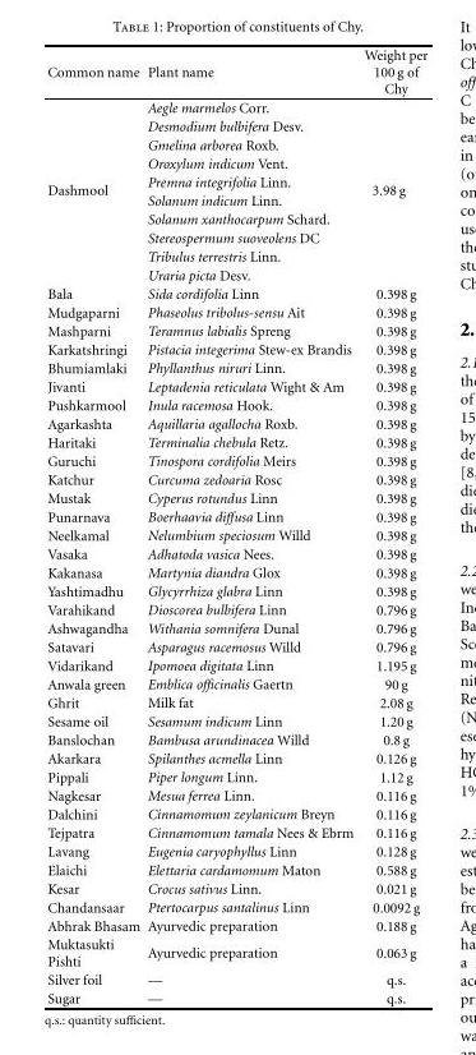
<table><thead><tr><td>Common name</td><td>Plant name</td><td>Weight per 100 g of Chy</td></tr></thead><tbody><tr><td rowspan="10">Dashmool</td><td>Aegle marmelos Corr.</td><td rowspan="10">3.98 g</td></tr><tr><td>Desmodium bulbifera Desv.</td></tr><tr><td>Gmelina arborea Roxb.</td></tr><tr><td>Oroxylum indicum Vent.</td></tr><tr><td>Premna integrifolia Linn.</td></tr><tr><td>Solanum indicum Linn.</td></tr><tr><td>Solanum xanthocarpum Schard.</td></tr><tr><td>Stereospermum suoveolens DC</td></tr><tr><td>Tribulus terrestris Linn.</td></tr><tr><td>Uraria picta Desv.</td></tr><tr><td>Bala</td><td>Sida cordifolia Linn</td><td>0.398 g</td></tr><tr><td>Mudgaparni</td><td>Phaseolus tribolus-sensu Ait</td><td>0.398 g</td></tr><tr><td>Mashparni</td><td>Teramnus labialis Spreng</td><td>0.398 g</td></tr><tr><td>Karkatshringi</td><td>Pistacia integerima Stew-ex Brandis</td><td>0.398 g</td></tr><tr><td>Bhumiamlaki</td><td>Phyllanthus niruri Linn.</td><td>0.398 g</td></tr><tr><td>Jivanti</td><td>Leptadenia reticulata Wight &amp; Am</td><td>0.398 g</td></tr><tr><td>Pushkarmool</td><td>Inula racemosa Hook.</td><td>0.398 g</td></tr><tr><td>Agarkashta</td><td>Aquillaria agallocha Roxb.</td><td>0.398 g</td></tr><tr><td>Haritaki</td><td>Terminalia chebula Retz.</td><td>0.398 g</td></tr><tr><td>Guruchi</td><td>Tinospora cordifolia Meirs</td><td>0.398 g</td></tr><tr><td>Katchur</td><td>Curcuma zedoaria Rosc</td><td>0.398 g</td></tr><tr><td>Mustak</td><td>Cyperus rotundus Linn</td><td>0.398 g</td></tr><tr><td>Punarnava</td><td>Boerhaavia diffusa Linn</td><td>0.398 g</td></tr><tr><td>Neelkamal</td><td>Nelumbium speciosum Willd</td><td>0.398 g</td></tr><tr><td>Vasaka</td><td>Adhatoda vasica Nees.</td><td>0.398 g</td></tr><tr><td>Kakanasa</td><td>Martynia diandra Glox</td><td>0.398 g</td></tr><tr><td>Yashtimadhu</td><td>Glycyrrhiza glabra Linn</td><td>0.398 g</td></tr><tr><td>Varahikand</td><td>Dioscorea bulbifera Linn</td><td>0.796 g</td></tr><tr><td>Ashwagandha</td><td>Withania somnifera Dunal</td><td>0.796 g</td></tr><tr><td>Satavari</td><td>Asparagus racemosus Willd</td><td>0.796 g</td></tr><tr><td>Vidarikand</td><td>Ipomoea digitata Linn</td><td>1.195 g</td></tr><tr><td>Anwala green</td><td>Emblica officinalis Gaertn</td><td>90 g</td></tr><tr><td>Ghrit</td><td>Milk fat</td><td>2.08 g</td></tr><tr><td>Sesame oil</td><td>Sesamum indicum Linn</td><td>1.20 g</td></tr><tr><td>Banslochan</td><td>Bambusa arundinacea Willd</td><td>0.8 g</td></tr><tr><td>Akarkara</td><td>Spilanthes acmella Linn</td><td>0.126 g</td></tr><tr><td>Pippali</td><td>Piper longum Linn.</td><td>1.12 g</td></tr><tr><td>Nagkesar</td><td>Mesua ferrea Linn.</td><td>0.116 g</td></tr><tr><td>Dalchini</td><td>Cinnamomum zeylanicum Breyn</td><td>0.116 g</td></tr><tr><td>Tejpatra</td><td>Cinnamomum tamala Nees &amp; Ebrm</td><td>0.116 g</td></tr><tr><td>Lavang</td><td>Eugenia caryophyllus Linn</td><td>0.128 g</td></tr><tr><td>Elaichi</td><td>Elettaria cardamomum Maton</td><td>0.588 g</td></tr><tr><td>Kesar</td><td>Crocus sativus Linn.</td><td>0.021 g</td></tr><tr><td>Chandansaar</td><td>Ptertocarpus santalinus Linn</td><td>0.0092 g</td></tr><tr><td>Abhrak Bhasam</td><td>Ayurvedic preparation</td><td>0.188 g</td></tr><tr><td>Muktasukti Pishti</td><td>Ayurvedic preparation</td><td>0.063 g</td></tr><tr><td>Silver foil</td><td>—</td><td>q.s.</td></tr><tr><td>Sugar</td><td>—</td><td>q.s.</td></tr></tbody></table>